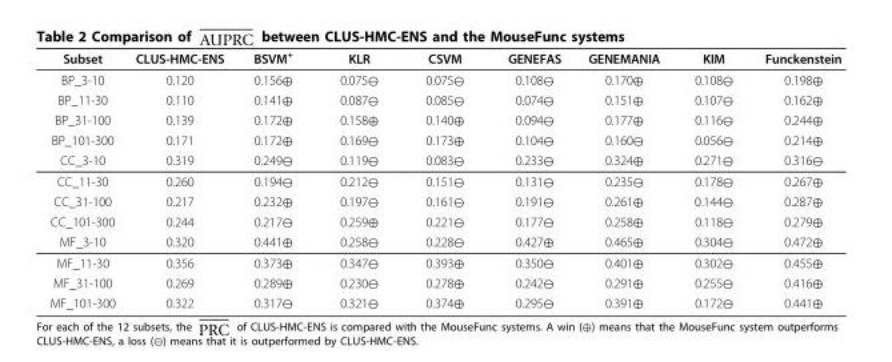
<table><thead><tr><td>Subset</td><td>CLUS-HMC-ENS</td><td>BSVM<sup>+</sup></td><td>KLR</td><td>CSVM</td><td>GENEFAS</td><td>GENEMANIA</td><td>KIM</td><td>Funckenstein</td></tr></thead><tbody><tr><td>BP_3-10</td><td>0.120</td><td>0.156⊕</td><td>0.075⊖</td><td>0.075⊖</td><td>0.108⊖</td><td>0.170⊕</td><td>0.108⊖</td><td>0.198⊕</td></tr><tr><td>BP_11-30</td><td>0.110</td><td>0.141⊕</td><td>0.087⊖</td><td>0.085⊖</td><td>0.074⊖</td><td>0.151⊕</td><td>0.107⊖</td><td>0.162⊕</td></tr><tr><td>BP_31-100</td><td>0.139</td><td>0.172⊕</td><td>0.158⊕</td><td>0.140⊕</td><td>0.094⊖</td><td>0.177⊕</td><td>0.116⊖</td><td>0.244⊕</td></tr><tr><td>BP_101-300</td><td>0.171</td><td>0.172⊕</td><td>0.169⊖</td><td>0.173⊕</td><td>0.104⊖</td><td>0.160⊖</td><td>0.056⊖</td><td>0.214⊕</td></tr><tr><td>CC_3-10</td><td>0.319</td><td>0.249⊖</td><td>0.119⊖</td><td>0.083⊖</td><td>0.233⊖</td><td>0.324⊕</td><td>0.271⊖</td><td>0.316⊖</td></tr><tr><td>CC_11-30</td><td>0.260</td><td>0.194⊖</td><td>0.212⊖</td><td>0.151⊖</td><td>0.131⊖</td><td>0.235⊖</td><td>0.178⊖</td><td>0.267⊕</td></tr><tr><td>CC_31-100</td><td>0.217</td><td>0.232⊕</td><td>0.197⊖</td><td>0.161⊖</td><td>0.191⊖</td><td>0.261⊕</td><td>0.144⊖</td><td>0.287⊕</td></tr><tr><td>CC_101-300</td><td>0.244</td><td>0.217⊖</td><td>0.259⊕</td><td>0.221⊖</td><td>0.177⊖</td><td>0.258⊕</td><td>0.118⊖</td><td>0.279⊕</td></tr><tr><td>MF_3-10</td><td>0.320</td><td>0.441⊕</td><td>0.258⊖</td><td>0.228⊖</td><td>0.427⊕</td><td>0.465⊕</td><td>0.304⊖</td><td>0.472⊕</td></tr><tr><td>MF_11-30</td><td>0.356</td><td>0.373⊕</td><td>0.347⊖</td><td>0.393⊕</td><td>0.350⊖</td><td>0.401⊕</td><td>0.302⊖</td><td>0.455⊕</td></tr><tr><td>MF_31-100</td><td>0.269</td><td>0.289⊕</td><td>0.230⊖</td><td>0.278⊕</td><td>0.242⊖</td><td>0.291⊕</td><td>0.255⊖</td><td>0.416⊕</td></tr><tr><td>MF_101-300</td><td>0.322</td><td>0.317⊖</td><td>0.321⊖</td><td>0.374⊕</td><td>0.295⊖</td><td>0.391⊕</td><td>0.172⊖</td><td>0.441⊕</td></tr></tbody></table>